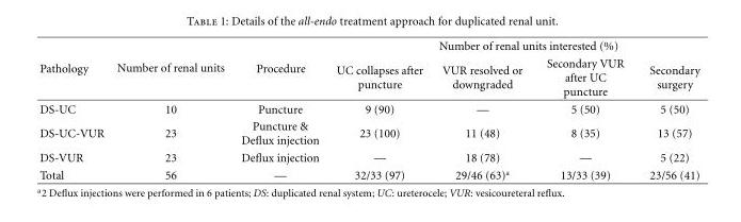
<table><thead><tr><td rowspan="2">Pathology</td><td rowspan="2">Number of renal units</td><td rowspan="2">Procedure</td><td colspan="4">Number of renal units interested (%)</td></tr><tr><td>UC collapses after puncture</td><td>VUR resolved or downgraded</td><td>Secondary VUR after UC puncture</td><td>Secondary surgery</td></tr></thead><tbody><tr><td>DS-UC</td><td>10</td><td>Puncture</td><td>9 (90)</td><td>—</td><td>5 (50)</td><td>5 (50)</td></tr><tr><td>DS-UC-VUR</td><td>23</td><td>Puncture &amp; Deflux injection</td><td>23 (100)</td><td>11 (48)</td><td>8 (35)</td><td>13 (57)</td></tr><tr><td>DS-VUR</td><td>23</td><td>Deflux injection</td><td>—</td><td>18 (78)</td><td>—</td><td>5 (22)</td></tr><tr><td>Total</td><td>56</td><td>—</td><td>32/33 (97)</td><td>29/46 (63)<sup>a</sup></td><td>13/33 (39)</td><td>23/56 (41)</td></tr></tbody></table>